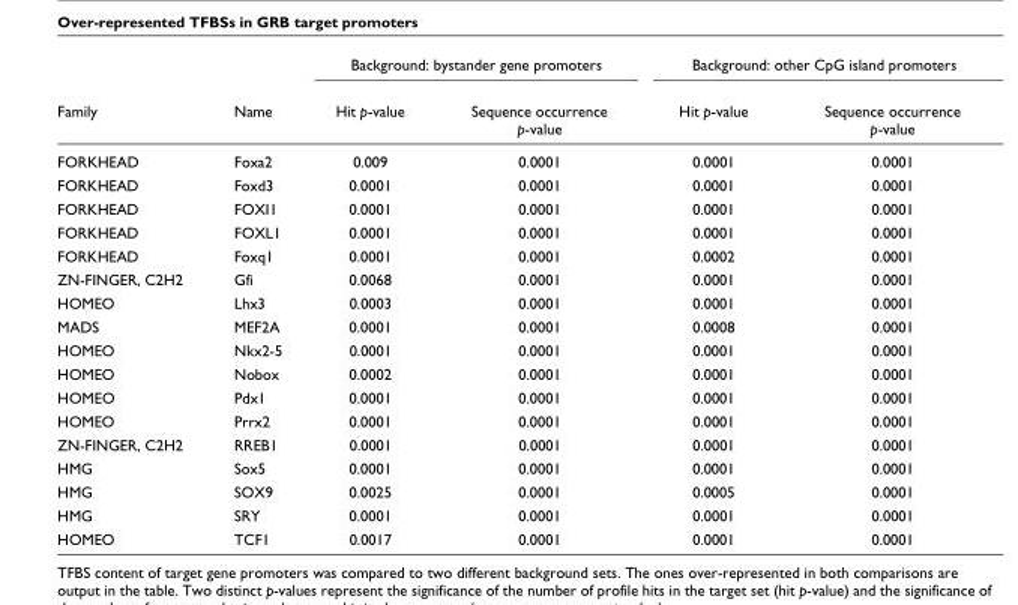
<table><thead><tr><td rowspan="2">Family</td><td rowspan="2">Name</td><td colspan="2">Background: bystander gene promoters</td><td colspan="2">Background: other CpG island promoters</td></tr><tr><td>Hit p-value</td><td>Sequence occurrence p-value</td><td>Hit p-value</td><td>Sequence occurrence p-value</td></tr></thead><tbody><tr><td>FORKHEAD</td><td>Foxa2</td><td>0.009</td><td>0.0001</td><td>0.0001</td><td>0.0001</td></tr><tr><td>FORKHEAD</td><td>Foxd3</td><td>0.0001</td><td>0.0001</td><td>0.0001</td><td>0.0001</td></tr><tr><td>FORKHEAD</td><td>FOXI1</td><td>0.0001</td><td>0.0001</td><td>0.0001</td><td>0.0001</td></tr><tr><td>FORKHEAD</td><td>FOXL1</td><td>0.0001</td><td>0.0001</td><td>0.0001</td><td>0.0001</td></tr><tr><td>FORKHEAD</td><td>Foxq1</td><td>0.0001</td><td>0.0001</td><td>0.0002</td><td>0.0001</td></tr><tr><td>ZN-FINGER, C2H2</td><td>Gfi</td><td>0.0068</td><td>0.0001</td><td>0.0001</td><td>0.0001</td></tr><tr><td>HOMEO</td><td>Lhx3</td><td>0.0003</td><td>0.0001</td><td>0.0001</td><td>0.0001</td></tr><tr><td>MADS</td><td>MEF2A</td><td>0.0001</td><td>0.0001</td><td>0.0008</td><td>0.0001</td></tr><tr><td>HOMEO</td><td>Nkx2-5</td><td>0.0001</td><td>0.0001</td><td>0.0001</td><td>0.0001</td></tr><tr><td>HOMEO</td><td>Nobox</td><td>0.0002</td><td>0.0001</td><td>0.0001</td><td>0.0001</td></tr><tr><td>HOMEO</td><td>Pdx1</td><td>0.0001</td><td>0.0001</td><td>0.0001</td><td>0.0001</td></tr><tr><td>HOMEO</td><td>Prrx2</td><td>0.0001</td><td>0.0001</td><td>0.0001</td><td>0.0001</td></tr><tr><td>ZN-FINGER, C2H2</td><td>RREB1</td><td>0.0001</td><td>0.0001</td><td>0.0001</td><td>0.0001</td></tr><tr><td>HMG</td><td>Sox5</td><td>0.0001</td><td>0.0001</td><td>0.0001</td><td>0.0001</td></tr><tr><td>HMG</td><td>SOX9</td><td>0.0025</td><td>0.0001</td><td>0.0005</td><td>0.0001</td></tr><tr><td>HMG</td><td>SRY</td><td>0.0001</td><td>0.0001</td><td>0.0001</td><td>0.0001</td></tr><tr><td>HOMEO</td><td>TCF1</td><td>0.0017</td><td>0.0001</td><td>0.0001</td><td>0.0001</td></tr></tbody></table>